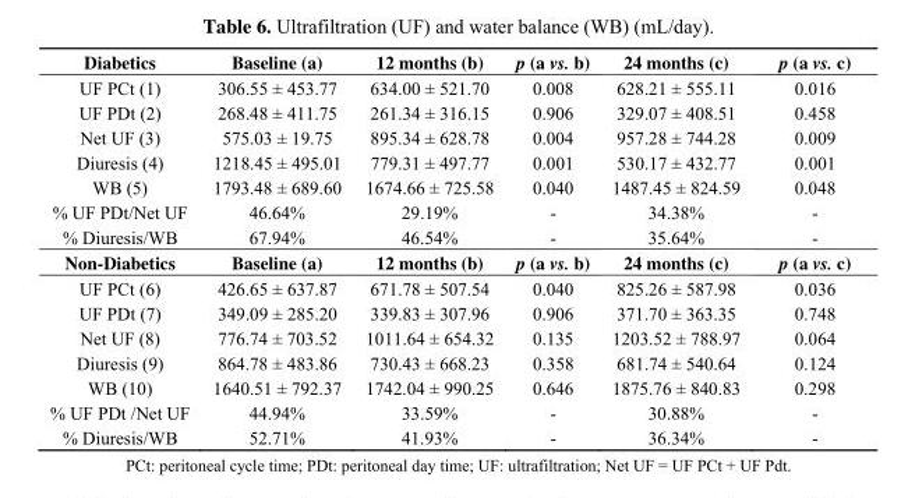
<table><tbody><tr><td>Diabetics</td><td>Baseline (a)</td><td>12 months (b)</td><td>p (a vs. b)</td><td>24 months (c)</td><td>p (a vs. c)</td></tr><tr><td>UF PCt (1)</td><td>306.55 ± 453.77</td><td>634.00 ± 521.70</td><td>0.008</td><td>628.21 ± 555.11</td><td>0.016</td></tr><tr><td>UF PDt (2)</td><td>268.48 ± 411.75</td><td>261.34 ± 316.15</td><td>0.906</td><td>329.07 ± 408.51</td><td>0.458</td></tr><tr><td>Net UF (3)</td><td>575.03 ± 19.75</td><td>895.34 ± 628.78</td><td>0.004</td><td>957.28 ± 744.28</td><td>0.009</td></tr><tr><td>Diuresis (4)</td><td>1218.45 ± 495.01</td><td>779.31 ± 497.77</td><td>0.001</td><td>530.17 ± 432.77</td><td>0.001</td></tr><tr><td>WB (5)</td><td>1793.48 ± 689.60</td><td>1674.66 ± 725.58</td><td>0.040</td><td>1487.45 ± 824.59</td><td>0.048</td></tr><tr><td>% UF PDt/Net UF</td><td>46.64%</td><td>29.19%</td><td>-</td><td>34.38%</td><td>-</td></tr><tr><td>% Diuresis/WB</td><td>67.94%</td><td>46.54%</td><td>-</td><td>35.64%</td><td>-</td></tr><tr><td>Non-Diabetics</td><td>Baseline (a)</td><td>12 months (b)</td><td>p (a vs. b)</td><td>24 months (c)</td><td>p (a vs. c)</td></tr><tr><td>UF PCt (6)</td><td>426.65 ± 637.87</td><td>671.78 ± 507.54</td><td>0.040</td><td>825.26 ± 587.98</td><td>0.036</td></tr><tr><td>UF PDt (7)</td><td>349.09 ± 285.20</td><td>339.83 ± 307.96</td><td>0.906</td><td>371.70 ± 363.35</td><td>0.748</td></tr><tr><td>Net UF (8)</td><td>776.74 ± 703.52</td><td>1011.64 ± 654.32</td><td>0.135</td><td>1203.52 ± 788.97</td><td>0.064</td></tr><tr><td>Diuresis (9)</td><td>864.78 ± 483.86</td><td>730.43 ± 668.23</td><td>0.358</td><td>681.74 ± 540.64</td><td>0.124</td></tr><tr><td>WB (10)</td><td>1640.51 ± 792.37</td><td>1742.04 ± 990.25</td><td>0.646</td><td>1875.76 ± 840.83</td><td>0.298</td></tr><tr><td>% UF PDt /Net UF</td><td>44.94%</td><td>33.59%</td><td>-</td><td>30.88%</td><td>-</td></tr><tr><td>% Diuresis/WB</td><td>52.71%</td><td>41.93%</td><td>-</td><td>36.34%</td><td>-</td></tr></tbody></table>